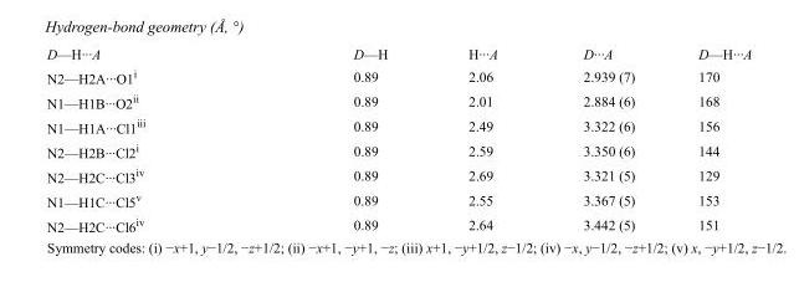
<table><tbody><tr><td>D—H···A</td><td>D—H</td><td>H···A</td><td>D···A</td><td>D—H···A</td></tr><tr><td>N2—H2A···O1<sup>i</sup></td><td>0.89</td><td>2.06</td><td>2.939 (7)</td><td>170</td></tr><tr><td>N1—H1B···O2<sup>ii</sup></td><td>0.89</td><td>2.01</td><td>2.884 (6)</td><td>168</td></tr><tr><td>N1—H1A···Cl1<sup>iii</sup></td><td>0.89</td><td>2.49</td><td>3.322 (6)</td><td>156</td></tr><tr><td>N2—H2B···Cl2<sup>i</sup></td><td>0.89</td><td>2.59</td><td>3.350 (6)</td><td>144</td></tr><tr><td>N2—H2C···Cl3<sup>iv</sup></td><td>0.89</td><td>2.69</td><td>3.321 (5)</td><td>129</td></tr><tr><td>N1—H1C···Cl5<sup>v</sup></td><td>0.89</td><td>2.55</td><td>3.367 (5)</td><td>153</td></tr><tr><td>N2—H2C···Cl6<sup>iv</sup></td><td>0.89</td><td>2.64</td><td>3.442 (5)</td><td>151</td></tr></tbody></table>